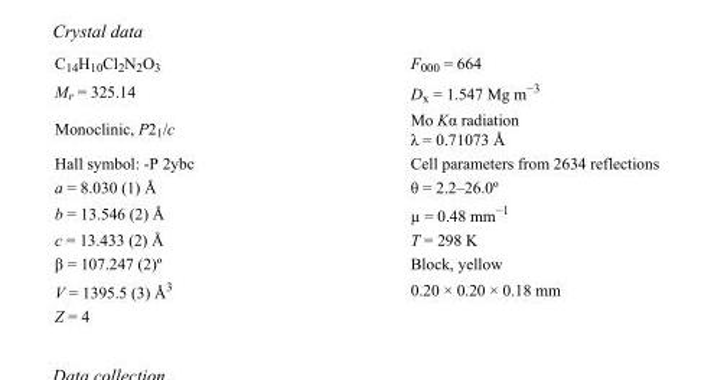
<table><tbody><tr><td>C<sub>14</sub>H<sub>10</sub>Cl<sub>2</sub>N<sub>2</sub>O<sub>3</sub></td><td>F000 = 664</td></tr><tr><td>M<sub>r</sub> = 325.14</td><td>D<sub>x</sub> = 1.547 Mg m<sup>−3</sup></td></tr><tr><td>Monoclinic, P2<sub>1</sub>/c</td><td>Mo Kα radiation λ = 0.71073 Å</td></tr><tr><td>Hall symbol: -P 2ybc</td><td>Cell parameters from 2634 reflections</td></tr><tr><td>a = 8.030 (1) Å</td><td>θ = 2.2–26.0º</td></tr><tr><td>b = 13.546 (2) Å</td><td>µ = 0.48 mm<sup>−1</sup></td></tr><tr><td>c = 13.433 (2) Å</td><td>T = 298 K</td></tr><tr><td>β = 107.247 (2)º</td><td>Block, yellow</td></tr><tr><td>V = 1395.5 (3) Å<sup>3</sup></td><td>0.20 × 0.20 × 0.18 mm</td></tr><tr><td>Z = 4</td><td></td></tr></tbody></table>